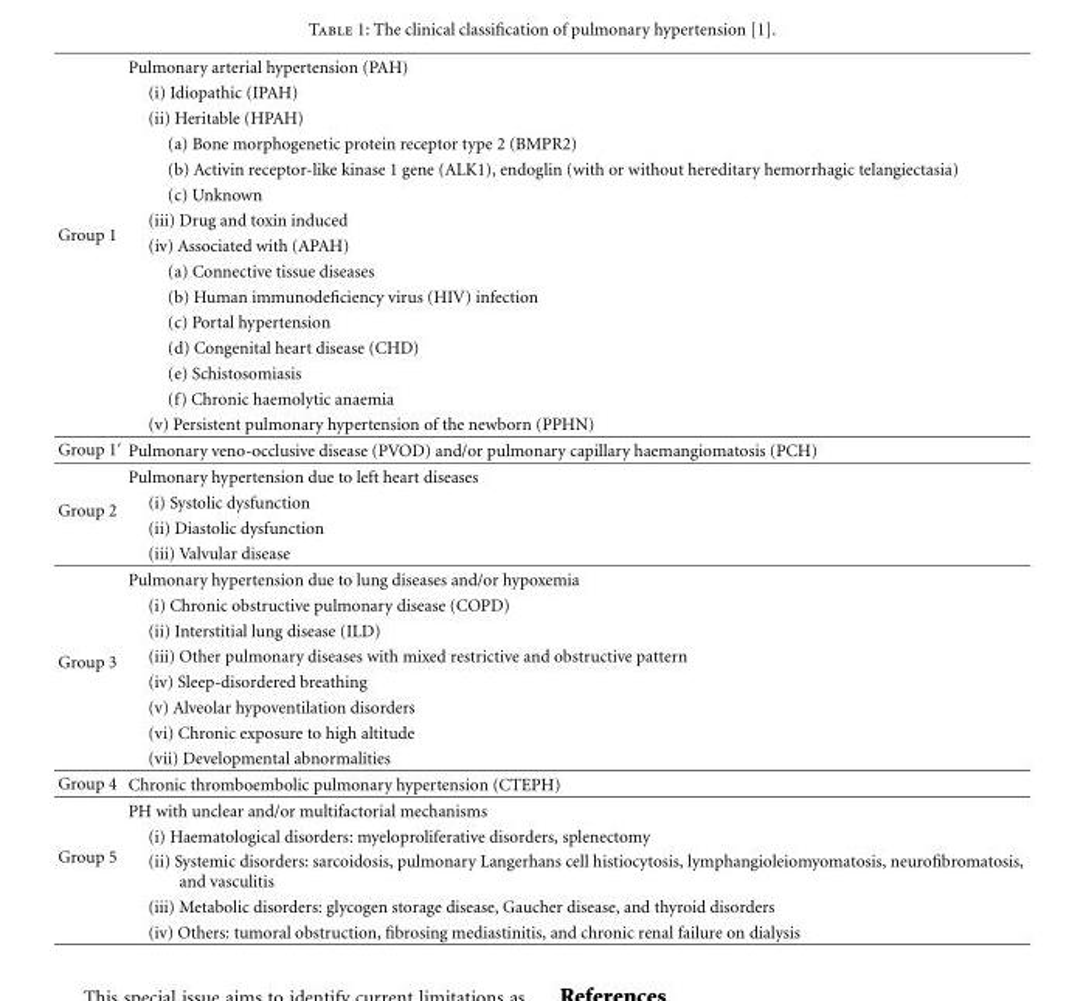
<table><tbody><tr><td rowspan="15">Group 1</td><td>Pulmonary arterial hypertension (PAH)</td></tr><tr><td>(i) Idiopathic (IPAH)</td></tr><tr><td>(ii) Heritable (HPAH)</td></tr><tr><td>(a) Bone morphogenetic protein receptor type 2 (BMPR2)</td></tr><tr><td>(b) Activin receptor-like kinase 1 gene (ALK1), endoglin (with or without hereditary hemorrhagic telangiectasia)</td></tr><tr><td>(c) Unknown</td></tr><tr><td>(iii) Drug and toxin induced</td></tr><tr><td>(iv) Associated with (APAH)</td></tr><tr><td>(a) Connective tissue diseases</td></tr><tr><td>(b) Human immunodeficiency virus (HIV) infection</td></tr><tr><td>(c) Portal hypertension</td></tr><tr><td>(d) Congenital heart disease (CHD)</td></tr><tr><td>(e) Schistosomiasis</td></tr><tr><td>(f) Chronic haemolytic anaemia</td></tr><tr><td>(v) Persistent pulmonary hypertension of the newborn (PPHN)</td></tr><tr><td>Group 1′</td><td>Pulmonary veno-occlusive disease (PVOD) and/or pulmonary capillary haemangiomatosis (PCH)</td></tr><tr><td rowspan="4">Group 2</td><td>Pulmonary hypertension due to left heart diseases</td></tr><tr><td>(i) Systolic dysfunction</td></tr><tr><td>(ii) Diastolic dysfunction</td></tr><tr><td>(iii) Valvular disease</td></tr><tr><td rowspan="8">Group 3</td><td>Pulmonary hypertension due to lung diseases and/or hypoxemia</td></tr><tr><td>(i) Chronic obstructive pulmonary disease (COPD)</td></tr><tr><td>(ii) Interstitial lung disease (ILD)</td></tr><tr><td>(iii) Other pulmonary diseases with mixed restrictive and obstructive pattern</td></tr><tr><td>(iv) Sleep-disordered breathing</td></tr><tr><td>(v) Alveolar hypoventilation disorders</td></tr><tr><td>(vi) Chronic exposure to high altitude</td></tr><tr><td>(vii) Developmental abnormalities</td></tr><tr><td>Group 4</td><td>Chronic thromboembolic pulmonary hypertension (CTEPH)</td></tr><tr><td rowspan="5">Group 5</td><td>PH with unclear and/or multifactorial mechanisms</td></tr><tr><td>(i) Haematological disorders: myeloproliferative disorders, splenectomy</td></tr><tr><td>(ii) Systemic disorders: sarcoidosis, pulmonary Langerhans cell histiocytosis, lymphangioleiomyomatosis, neurofibromatosis, and vasculitis</td></tr><tr><td>(iii) Metabolic disorders: glycogen storage disease, Gaucher disease, and thyroid disorders</td></tr><tr><td>(iv) Others: tumoral obstruction, fibrosing mediastinitis, and chronic renal failure on dialysis</td></tr></tbody></table>